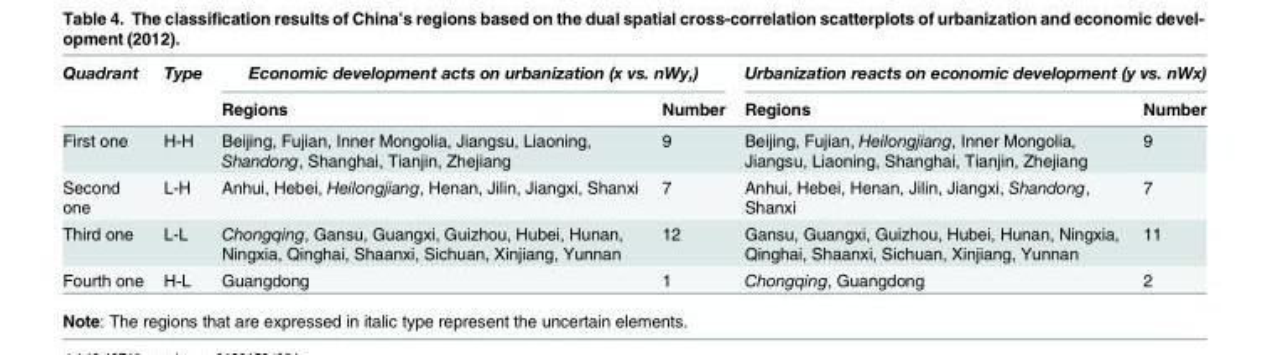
<table><thead><tr><td rowspan="2">Quadrant</td><td rowspan="2">Type</td><td colspan="2">Economic development acts on urbanization (x vs. nWy,)</td><td colspan="2">Urbanization reacts on economic development (y vs. nWx)</td></tr><tr><td>Regions</td><td>Number</td><td>Regions</td><td>Number</td></tr></thead><tbody><tr><td>First one</td><td>H-H</td><td>Beijing, Fujian, Inner Mongolia, Jiangsu, Liaoning, Shandong, Shanghai, Tianjin, Zhejiang</td><td>9</td><td>Beijing, Fujian, Heilongjiang, Inner Mongolia, Jiangsu, Liaoning, Shanghai, Tianjin, Zhejiang</td><td>9</td></tr><tr><td>Second one</td><td>L-H</td><td>Anhui, Hebei, Heilongjiang, Henan, Jilin, Jiangxi, Shanxi</td><td>7</td><td>Anhui, Hebei, Henan, Jilin, Jiangxi, Shandong, Shanxi</td><td>7</td></tr><tr><td>Third one</td><td>L-L</td><td>Chongqing, Gansu, Guangxi, Guizhou, Hubei, Hunan, Ningxia, Qinghai, Shaanxi, Sichuan, Xinjiang, Yunnan</td><td>12</td><td>Gansu, Guangxi, Guizhou, Hubei, Hunan, Ningxia, Qinghai, Shaanxi, Sichuan, Xinjiang, Yunnan</td><td>11</td></tr><tr><td>Fourth one</td><td>H-L</td><td>Guangdong</td><td>1</td><td>Chongqing, Guangdong</td><td>2</td></tr></tbody></table>